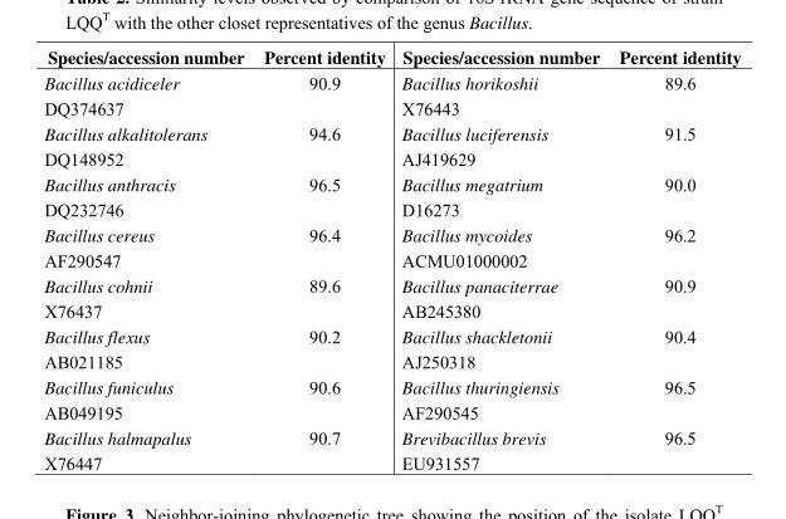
<table><thead><tr><td>Species/accession number</td><td>Percent identity</td><td>Species/accession number</td><td>Percent identity</td></tr></thead><tbody><tr><td>Bacillus acidiceler</td><td>90.9</td><td>Bacillus horikoshii</td><td>89.6</td></tr><tr><td>DQ374637</td><td></td><td>X76443</td><td></td></tr><tr><td>Bacillus alkalitolerans</td><td>94.6</td><td>Bacillus luciferensis</td><td>91.5</td></tr><tr><td>DQ148952</td><td></td><td>AJ419629</td><td></td></tr><tr><td>Bacillus anthracis</td><td>96.5</td><td>Bacillus megatrium</td><td>90.0</td></tr><tr><td>DQ232746</td><td></td><td>D16273</td><td></td></tr><tr><td>Bacillus cereus</td><td>96.4</td><td>Bacillus mycoides</td><td>96.2</td></tr><tr><td>AF290547</td><td></td><td>ACMU01000002</td><td></td></tr><tr><td>Bacillus cohnii</td><td>89.6</td><td>Bacillus panaciterrae</td><td>90.9</td></tr><tr><td>X76437</td><td></td><td>AB245380</td><td></td></tr><tr><td>Bacillus flexus</td><td>90.2</td><td>Bacillus shackletonii</td><td>90.4</td></tr><tr><td>AB021185</td><td></td><td>AJ250318</td><td></td></tr><tr><td>Bacillus funiculus</td><td>90.6</td><td>Bacillus thuringiensis</td><td>96.5</td></tr><tr><td>AB049195</td><td></td><td>AF290545</td><td></td></tr><tr><td>Bacillus halmapalus</td><td>90.7</td><td>Brevibacillus brevis</td><td>96.5</td></tr><tr><td>X76447</td><td></td><td>EU931557</td><td></td></tr></tbody></table>